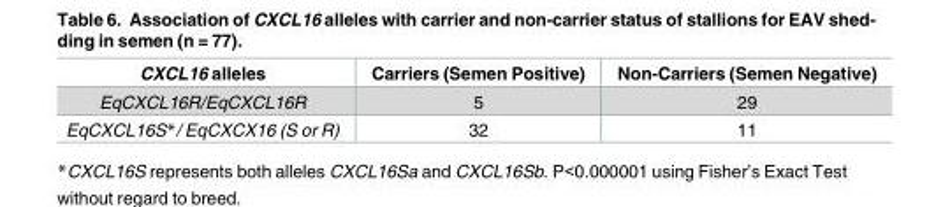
<table><thead><tr><td>CXCL16 alleles</td><td>Carriers (Semen Positive)</td><td>Non-Carriers (Semen Negative)</td></tr></thead><tbody><tr><td>EqCXCL16R/EqCXCL16R</td><td>5</td><td>29</td></tr><tr><td>EqCXCL16S*/ EqCXCX16 (S or R)</td><td>32</td><td>11</td></tr></tbody></table>